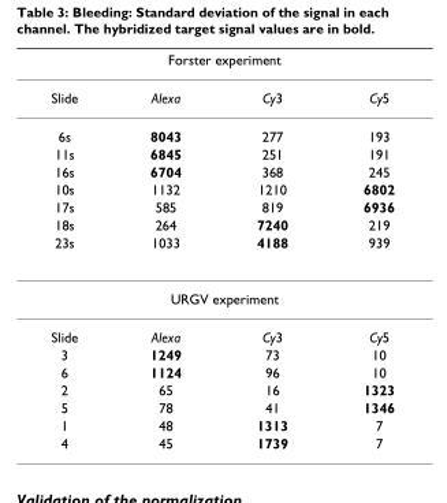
<table><thead><tr><td colspan="4">Forster experiment</td></tr><tr><td>Slide</td><td>Alexa</td><td>Cy3</td><td>Cy5</td></tr></thead><tbody><tr><td>6s</td><td>8043</td><td>277</td><td>193</td></tr><tr><td>11s</td><td>6845</td><td>251</td><td>191</td></tr><tr><td>16s</td><td>6704</td><td>368</td><td>245</td></tr><tr><td>10s</td><td>1132</td><td>1210</td><td>6802</td></tr><tr><td>17s</td><td>585</td><td>819</td><td>6936</td></tr><tr><td>18s</td><td>264</td><td>7240</td><td>219</td></tr><tr><td>23s</td><td>1033</td><td>4188</td><td>939</td></tr><tr><td colspan="4">URGV experiment</td></tr><tr><td>Slide</td><td>Alexa</td><td>Cy3</td><td>Cy5</td></tr><tr><td>3</td><td>1249</td><td>73</td><td>10</td></tr><tr><td>6</td><td>1124</td><td>96</td><td>10</td></tr><tr><td>2</td><td>65</td><td>16</td><td>1323</td></tr><tr><td>5</td><td>78</td><td>41</td><td>1346</td></tr><tr><td>1</td><td>48</td><td>1313</td><td>7</td></tr><tr><td>4</td><td>45</td><td>1739</td><td>7</td></tr></tbody></table>